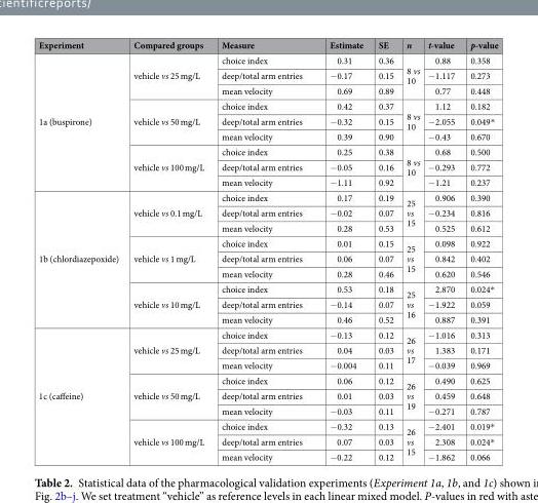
<table><thead><tr><td>Experiment</td><td>Compared groups</td><td>Measure</td><td>Estimate</td><td>SE</td><td>n</td><td>t-value</td><td>p-value</td></tr></thead><tbody><tr><td rowspan="9">1a (buspirone)</td><td rowspan="3">vehicle vs 25 mg/L</td><td>choice index</td><td>0.31</td><td>0.36</td><td rowspan="3">8 vs 10</td><td>0.88</td><td>0.358</td></tr><tr><td>deep/total arm entries</td><td>−0.17</td><td>0.15</td><td>−1.117</td><td>0.273</td></tr><tr><td>mean velocity</td><td>0.69</td><td>0.89</td><td>0.77</td><td>0.448</td></tr><tr><td rowspan="3">vehicle vs 50 mg/L</td><td>choice index</td><td>0.42</td><td>0.37</td><td rowspan="3">8 vs 10</td><td>1.12</td><td>0.182</td></tr><tr><td>deep/total arm entries</td><td>−0.32</td><td>0.15</td><td>−2.055</td><td>0.049*</td></tr><tr><td>mean velocity</td><td>0.39</td><td>0.90</td><td>−0.43</td><td>0.670</td></tr><tr><td rowspan="3">vehicle vs 100 mg/L</td><td>choice index</td><td>0.25</td><td>0.38</td><td rowspan="3">8 vs 10</td><td>0.68</td><td>0.500</td></tr><tr><td>deep/total arm entries</td><td>−0.05</td><td>0.16</td><td>−0.293</td><td>0.772</td></tr><tr><td>mean velocity</td><td>−1.11</td><td>0.92</td><td>−1.21</td><td>0.237</td></tr><tr><td rowspan="9">1b (chlordiazepoxide)</td><td rowspan="3">vehicle vs 0.1 mg/L</td><td>choice index</td><td>0.17</td><td>0.19</td><td rowspan="3">25 vs 15</td><td>0.906</td><td>0.390</td></tr><tr><td>deep/total arm entries</td><td>−0.02</td><td>0.07</td><td>−0.234</td><td>0.816</td></tr><tr><td>mean velocity</td><td>0.28</td><td>0.53</td><td>0.525</td><td>0.612</td></tr><tr><td rowspan="3">vehicle vs 1 mg/L</td><td>choice index</td><td>0.01</td><td>0.15</td><td rowspan="3">25 vs 15</td><td>0.098</td><td>0.922</td></tr><tr><td>deep/total arm entries</td><td>0.06</td><td>0.07</td><td>0.842</td><td>0.402</td></tr><tr><td>mean velocity</td><td>0.28</td><td>0.46</td><td>0.620</td><td>0.546</td></tr><tr><td rowspan="3">vehicle vs 10 mg/L</td><td>choice index</td><td>0.53</td><td>0.18</td><td rowspan="3">25 vs 16</td><td>2.870</td><td>0.024*</td></tr><tr><td>deep/total arm entries</td><td>−0.14</td><td>0.07</td><td>−1.922</td><td>0.059</td></tr><tr><td>mean velocity</td><td>0.46</td><td>0.52</td><td>0.887</td><td>0.391</td></tr><tr><td rowspan="9">1c (caffeine)</td><td rowspan="3">vehicle vs 25 mg/L</td><td>choice index</td><td>−0.13</td><td>0.12</td><td rowspan="3">26 vs 17</td><td>−1.016</td><td>0.313</td></tr><tr><td>deep/total arm entries</td><td>0.04</td><td>0.03</td><td>1.383</td><td>0.171</td></tr><tr><td>mean velocity</td><td>−0.004</td><td>0.11</td><td>−0.039</td><td>0.969</td></tr><tr><td rowspan="3">vehicle vs 50 mg/L</td><td>choice index</td><td>0.06</td><td>0.12</td><td rowspan="3">26 vs 19</td><td>0.490</td><td>0.625</td></tr><tr><td>deep/total arm entries</td><td>0.01</td><td>0.03</td><td>0.459</td><td>0.648</td></tr><tr><td>mean velocity</td><td>−0.03</td><td>0.11</td><td>−0.271</td><td>0.787</td></tr><tr><td rowspan="3">vehicle vs 100 mg/L</td><td>choice index</td><td>−0.32</td><td>0.13</td><td rowspan="3">26 vs 15</td><td>−2.401</td><td>0.019*</td></tr><tr><td>deep/total arm entries</td><td>0.07</td><td>0.03</td><td>2.308</td><td>0.024*</td></tr><tr><td>mean velocity</td><td>−0.22</td><td>0.12</td><td>−1.862</td><td>0.066</td></tr></tbody></table>